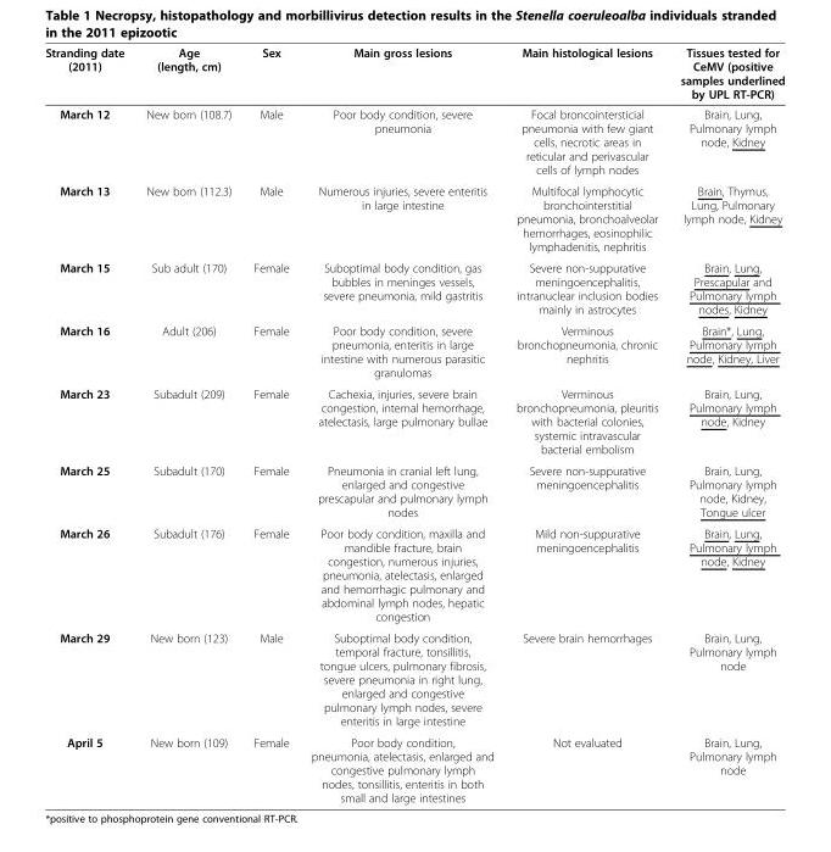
<table><thead><tr><td>Stranding date (2011)</td><td>Age (length, cm)</td><td>Sex</td><td>Main gross lesions</td><td>Main histological lesions</td><td>Tissues tested for CeMV (positive samples underlined by UPL RT-PCR)</td></tr></thead><tbody><tr><td>March 12</td><td>New born (108.7)</td><td>Male</td><td>Poor body condition, severe pneumonia</td><td>Focal broncointersticial pneumonia with few giant cells, necrotic areas in reticular and perivascular cells of lymph nodes</td><td>Brain, Lung, Pulmonary lymph node, Kidney</td></tr><tr><td>March 13</td><td>New born (112.3)</td><td>Male</td><td>Numerous injuries, severe enteritis in large intestine</td><td>Multifocal lymphocytic bronchointerstitial pneumonia, bronchoalveolar hemorrhages, eosinophilic lymphadenitis, nephritis</td><td>Brain, Thymus, Lung, Pulmonary lymph node, Kidney</td></tr><tr><td>March 15</td><td>Sub adult (170)</td><td>Female</td><td>Suboptimal body condition, gas bubbles in meninges vessels, severe pneumonia, mild gastritis</td><td>Severe non-suppurative meningoencephalitis, intranuclear inclusion bodies mainly in astrocytes</td><td>Brain, Lung, Prescapular and Pulmonary lymph nodes, Kidney</td></tr><tr><td>March 16</td><td>Adult (206)</td><td>Female</td><td>Poor body condition, severe pneumonia, enteritis in large intestine with numerous parasitic granulomas</td><td>Verminous bronchopneumonia, chronic nephritis</td><td>Brain*, Lung, Pulmonary lymph node, Kidney, Liver</td></tr><tr><td>March 23</td><td>Subadult (209)</td><td>Female</td><td>Cachexia, injuries, severe brain congestion, internal hemorrhage, atelectasis, large pulmonary bullae</td><td>Verminous bronchopneumonia, pleuritis with bacterial colonies, systemic intravascular bacterial embolism</td><td>Brain, Lung, Pulmonary lymph node, Kidney</td></tr><tr><td>March 25</td><td>Subadult (170)</td><td>Female</td><td>Pneumonia in cranial left lung, enlarged and congestive prescapular and pulmonary lymph nodes</td><td>Severe non-suppurative meningoencephalitis</td><td>Brain, Lung, Pulmonary lymph node, Kidney, Tongue ulcer</td></tr><tr><td>March 26</td><td>Subadult (176)</td><td>Female</td><td>Poor body condition, maxilla and mandible fracture, brain congestion, numerous injuries, pneumonia, atelectasis, enlarged and hemorrhagic pulmonary and abdominal lymph nodes, hepatic congestion</td><td>Mild non-suppurative meningoencephalitis</td><td>Brain, Lung, Pulmonary lymph node, Kidney</td></tr><tr><td>March 29</td><td>New born (123)</td><td>Male</td><td>Suboptimal body condition, temporal fracture, tonsillitis, tongue ulcers, pulmonary fibrosis, severe pneumonia in right lung, enlarged and congestive pulmonary lymph nodes, severe enteritis in large intestine</td><td>Severe brain hemorrhages</td><td>Brain, Lung, Pulmonary lymph node</td></tr><tr><td>April 5</td><td>New born (109)</td><td>Female</td><td>Poor body condition, pneumonia, atelectasis, enlarged and congestive pulmonary lymph nodes, tonsillitis, enteritis in both small and large intestines</td><td>Not evaluated</td><td>Brain, Lung, Pulmonary lymph node</td></tr></tbody></table>